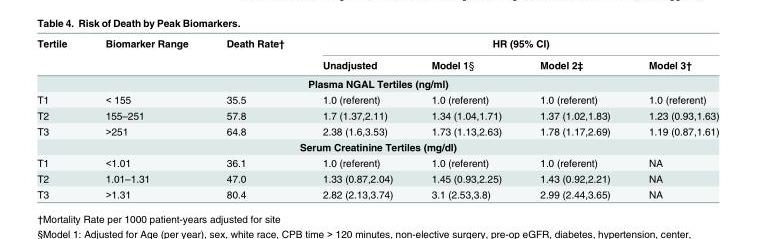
<table><thead><tr><td rowspan="2">Tertile</td><td rowspan="2">Biomarker Range</td><td rowspan="2">Death Rate†</td><td colspan="4">HR (95% CI)</td></tr><tr><td>Unadjusted</td><td>Model 1§</td><td>Model 2‡</td><td>Model 3†</td></tr></thead><tbody><tr><td colspan="7">Plasma NGAL Tertiles (ng/ml)</td></tr><tr><td>T1</td><td>&lt; 155</td><td>35.5</td><td>1.0 (referent)</td><td>1.0 (referent)</td><td>1.0 (referent)</td><td>1.0 (referent)</td></tr><tr><td>T2</td><td>155–251</td><td>57.8</td><td>1.7 (1.37,2.11)</td><td>1.34 (1.04,1.71)</td><td>1.37 (1.02,1.83)</td><td>1.23 (0.93,1.63)</td></tr><tr><td>T3</td><td>&gt;251</td><td>64.8</td><td>2.38 (1.6,3.53)</td><td>1.73 (1.13,2.63)</td><td>1.78 (1.17,2.69)</td><td>1.19 (0.87,1.61)</td></tr><tr><td colspan="7">Serum Creatinine Tertiles (mg/dl)</td></tr><tr><td>T1</td><td>&lt;1.01</td><td>36.1</td><td>1.0 (referent)</td><td>1.0 (referent)</td><td>1.0 (referent)</td><td>NA</td></tr><tr><td>T2</td><td>1.01–1.31</td><td>47.0</td><td>1.33 (0.87,2.04)</td><td>1.45 (0.93,2.25)</td><td>1.43 (0.92,2.21)</td><td>NA</td></tr><tr><td>T3</td><td>&gt;1.31</td><td>80.4</td><td>2.82 (2.13,3.74)</td><td>3.1 (2.53,3.8)</td><td>2.99 (2.44,3.65)</td><td>NA</td></tr></tbody></table>